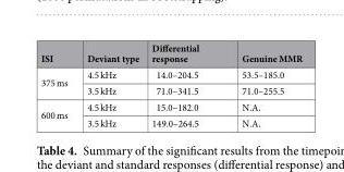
<table><thead><tr><td>ISI</td><td>Deviant type</td><td>Differential response</td><td>Genuine MMR</td></tr></thead><tbody><tr><td rowspan="2">375 ms</td><td>4.5 kHz</td><td>14.0–204.5</td><td>53.5–185.0</td></tr><tr><td>3.5 kHz</td><td>71.0–341.5</td><td>71.0–255.5</td></tr><tr><td rowspan="2">600 ms</td><td>4.5 kHz</td><td>15.0–182.0</td><td>N.A.</td></tr><tr><td>3.5 kHz</td><td>149.0–264.5</td><td>N.A.</td></tr></tbody></table>